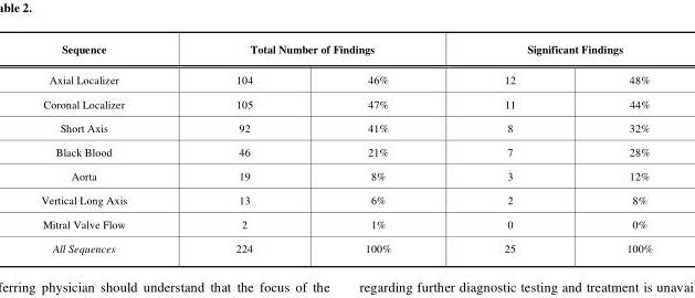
<table><tbody><tr><td>Sequence</td><td colspan="2">Total Number of Findings</td><td colspan="2">Significant Findings</td></tr><tr><td>Axial Localizer</td><td>104</td><td>46%</td><td>12</td><td>48%</td></tr><tr><td>Coronal Localizer</td><td>105</td><td>47%</td><td>11</td><td>44%</td></tr><tr><td>Short Axis</td><td>92</td><td>41%</td><td>8</td><td>32%</td></tr><tr><td>Black Blood</td><td>46</td><td>21%</td><td>7</td><td>28%</td></tr><tr><td>Aorta</td><td>19</td><td>8%</td><td>3</td><td>12%</td></tr><tr><td>Vertical Long Axis</td><td>13</td><td>6%</td><td>2</td><td>8%</td></tr><tr><td>Mitral Valve Flow</td><td>2</td><td>1%</td><td>0</td><td>0%</td></tr><tr><td>All Sequences</td><td>224</td><td>100%</td><td>25</td><td>100%</td></tr></tbody></table>